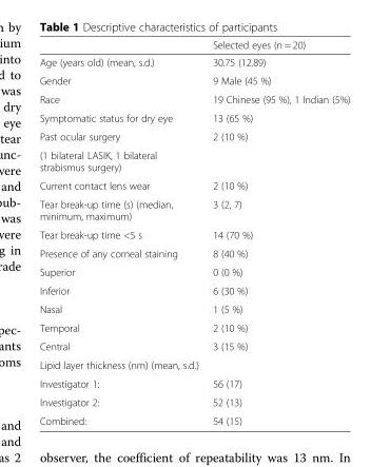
<table><thead><tr><td></td><td>Selected eyes (n = 20)</td></tr></thead><tbody><tr><td>Age (years old) (mean, s.d.)</td><td>30.75 (12.89)</td></tr><tr><td>Gender</td><td>9 Male (45 %)</td></tr><tr><td>Race</td><td>19 Chinese (95 %), 1 Indian (5%)</td></tr><tr><td>Symptomatic status for dry eye</td><td>13 (65 %)</td></tr><tr><td>Past ocular surgery</td><td>2 (10 %)</td></tr><tr><td colspan="2">(1 bilateral LASIK, 1 bilateral strabismus surgery)</td></tr><tr><td>Current contact lens wear</td><td>2 (10 %)</td></tr><tr><td>Tear break-up time (s) (median, minimum, maximum)</td><td>3 (2, 7)</td></tr><tr><td>Tear break-up time &lt;5 s</td><td>14 (70 %)</td></tr><tr><td>Presence of any corneal staining</td><td>8 (40 %)</td></tr><tr><td>Superior</td><td>0 (0 %)</td></tr><tr><td>Inferior</td><td>6 (30 %)</td></tr><tr><td>Nasal</td><td>1 (5 %)</td></tr><tr><td>Temporal</td><td>2 (10 %)</td></tr><tr><td>Central</td><td>3 (15 %)</td></tr><tr><td colspan="2">Lipid layer thickness (nm) (mean, s.d.)</td></tr><tr><td>Investigator 1:</td><td>56 (17)</td></tr><tr><td>Investigator 2:</td><td>52 (13)</td></tr><tr><td>Combined:</td><td>54 (15)</td></tr></tbody></table>